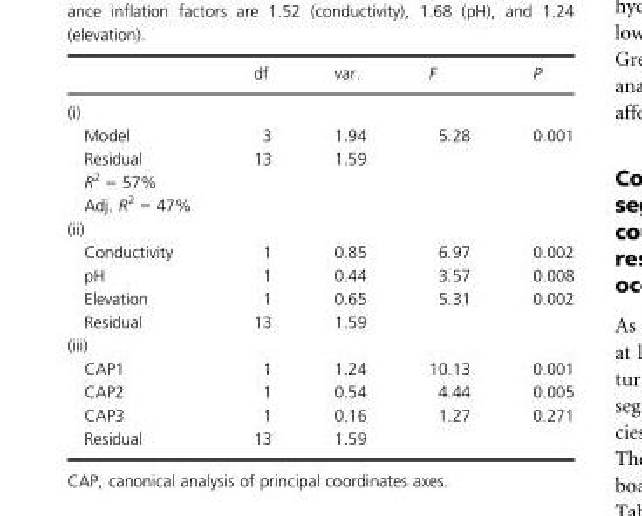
<table><thead><tr><td></td><td>df</td><td>var.</td><td>F</td><td>P</td></tr></thead><tbody><tr><td colspan="5">(i)</td></tr><tr><td>Model</td><td>3</td><td>1.94</td><td>5.28</td><td>0.001</td></tr><tr><td>Residual</td><td>13</td><td>1.59</td><td></td><td></td></tr><tr><td colspan="5">R<sup>2</sup> = 57%</td></tr><tr><td colspan="5">Adj. R<sup>2</sup> = 47%</td></tr><tr><td colspan="5">(ii)</td></tr><tr><td>Conductivity</td><td>1</td><td>0.85</td><td>6.97</td><td>0.002</td></tr><tr><td>pH</td><td>1</td><td>0.44</td><td>3.57</td><td>0.008</td></tr><tr><td>Elevation</td><td>1</td><td>0.65</td><td>5.31</td><td>0.002</td></tr><tr><td>Residual</td><td>13</td><td>1.59</td><td></td><td></td></tr><tr><td colspan="5">(iii)</td></tr><tr><td>CAP1</td><td>1</td><td>1.24</td><td>10.13</td><td>0.001</td></tr><tr><td>CAP2</td><td>1</td><td>0.54</td><td>4.44</td><td>0.005</td></tr><tr><td>CAP3</td><td>1</td><td>0.16</td><td>1.27</td><td>0.271</td></tr><tr><td>Residual</td><td>13</td><td>1.59</td><td></td><td></td></tr></tbody></table>